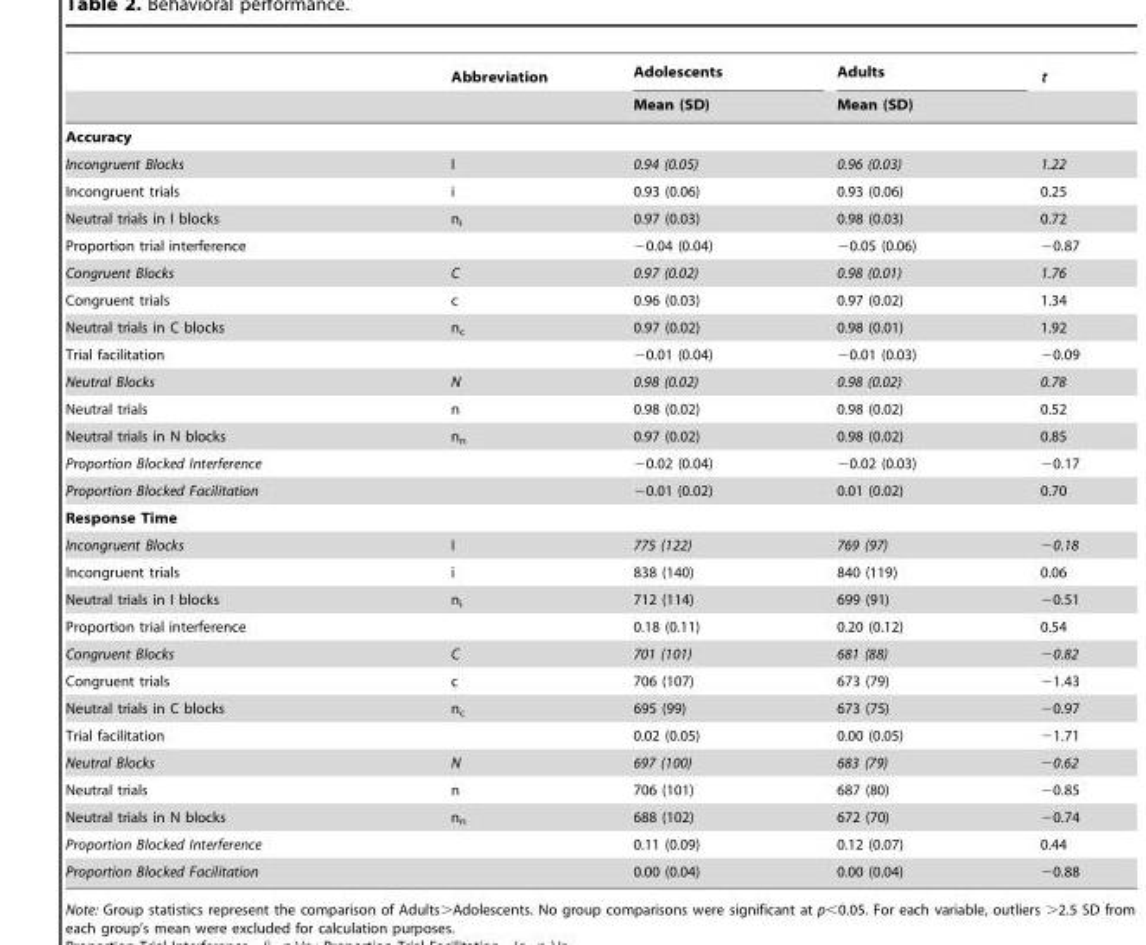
<table><thead><tr><td rowspan="2"></td><td rowspan="2">Abbreviation</td><td rowspan="2">Adolescents Mean (SD)</td><td rowspan="2">Adults Mean (SD)</td><td rowspan="2">t</td></tr><tr></tr></thead><tbody><tr><td colspan="5">Accuracy</td></tr><tr><td>Incongruent Blocks</td><td>I</td><td>0.94 (0.05)</td><td>0.96 (0.03)</td><td>1.22</td></tr><tr><td>Incongruent trials</td><td>i</td><td>0.93 (0.06)</td><td>0.93 (0.06)</td><td>0.25</td></tr><tr><td>Neutral trials in I blocks</td><td>n<sub>i</sub></td><td>0.97 (0.03)</td><td>0.98 (0.03)</td><td>0.72</td></tr><tr><td>Proportion trial interference</td><td></td><td>−0.04 (0.04)</td><td>−0.05 (0.06)</td><td>−0.87</td></tr><tr><td>Congruent Blocks</td><td>C</td><td>0.97 (0.02)</td><td>0.98 (0.01)</td><td>1.76</td></tr><tr><td>Congruent trials</td><td>c</td><td>0.96 (0.03)</td><td>0.97 (0.02)</td><td>1.34</td></tr><tr><td>Neutral trials in C blocks</td><td>n<sub>c</sub></td><td>0.97 (0.02)</td><td>0.98 (0.01)</td><td>1.92</td></tr><tr><td>Trial facilitation</td><td></td><td>−0.01 (0.04)</td><td>−0.01 (0.03)</td><td>−0.09</td></tr><tr><td>Neutral Blocks</td><td>N</td><td>0.98 (0.02)</td><td>0.98 (0.02)</td><td>0.78</td></tr><tr><td>Neutral trials</td><td>n</td><td>0.98 (0.02)</td><td>0.98 (0.02)</td><td>0.52</td></tr><tr><td>Neutral trials in N blocks</td><td>n<sub>n</sub></td><td>0.97 (0.02)</td><td>0.98 (0.02)</td><td>0.85</td></tr><tr><td>Proportion Blocked Interference</td><td></td><td>−0.02 (0.04)</td><td>−0.02 (0.03)</td><td>−0.17</td></tr><tr><td>Proportion Blocked Facilitation</td><td></td><td>−0.01 (0.02)</td><td>0.01 (0.02)</td><td>0.70</td></tr><tr><td colspan="5">Response Time</td></tr><tr><td>Incongruent Blocks</td><td>I</td><td>775 (122)</td><td>769 (97)</td><td>−0.18</td></tr><tr><td>Incongruent trials</td><td>i</td><td>838 (140)</td><td>840 (119)</td><td>0.06</td></tr><tr><td>Neutral trials in I blocks</td><td>n<sub>i</sub></td><td>712 (114)</td><td>699 (91)</td><td>−0.51</td></tr><tr><td>Proportion trial interference</td><td></td><td>0.18 (0.11)</td><td>0.20 (0.12)</td><td>0.54</td></tr><tr><td>Congruent Blocks</td><td>C</td><td>701 (101)</td><td>681 (88)</td><td>−0.82</td></tr><tr><td>Congruent trials</td><td>c</td><td>706 (107)</td><td>673 (79)</td><td>−1.43</td></tr><tr><td>Neutral trials in C blocks</td><td>n<sub>c</sub></td><td>695 (99)</td><td>673 (75)</td><td>−0.97</td></tr><tr><td>Trial facilitation</td><td></td><td>0.02 (0.05)</td><td>0.00 (0.05)</td><td>−1.71</td></tr><tr><td>Neutral Blocks</td><td>N</td><td>697 (100)</td><td>683 (79)</td><td>−0.62</td></tr><tr><td>Neutral trials</td><td>n</td><td>706 (101)</td><td>687 (80)</td><td>−0.85</td></tr><tr><td>Neutral trials in N blocks</td><td>n<sub>n</sub></td><td>688 (102)</td><td>672 (70)</td><td>−0.74</td></tr><tr><td>Proportion Blocked Interference</td><td></td><td>0.11 (0.09)</td><td>0.12 (0.07)</td><td>0.44</td></tr><tr><td>Proportion Blocked Facilitation</td><td></td><td>0.00 (0.04)</td><td>0.00 (0.04)</td><td>−0.88</td></tr></tbody></table>